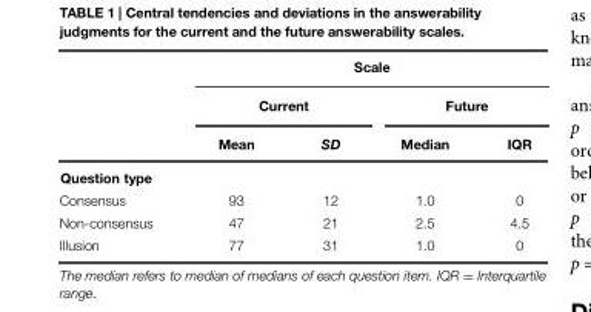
<table><thead><tr><td rowspan="3"></td><td colspan="4">Scale</td></tr><tr><td colspan="2">Current</td><td colspan="2">Future</td></tr><tr><td>Mean</td><td>SD</td><td>Median</td><td>IQR</td></tr></thead><tbody><tr><td colspan="5">Question type</td></tr><tr><td>Consensus</td><td>93</td><td>12</td><td>1.0</td><td>0</td></tr><tr><td>Non-consensus</td><td>47</td><td>21</td><td>2.5</td><td>4.5</td></tr><tr><td>Illusion</td><td>77</td><td>31</td><td>1.0</td><td>0</td></tr></tbody></table>